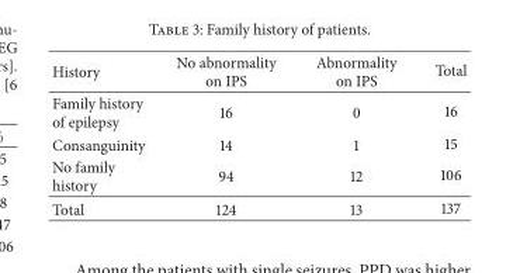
<table><thead><tr><td>History</td><td>No abnormality on IPS</td><td>Abnormality on IPS</td><td>Total</td></tr></thead><tbody><tr><td>Family history of epilepsy</td><td>16</td><td>0</td><td>16</td></tr><tr><td>Consanguinity</td><td>14</td><td>1</td><td>15</td></tr><tr><td>No family history</td><td>94</td><td>12</td><td>106</td></tr><tr><td>Total</td><td>124</td><td>13</td><td>137</td></tr></tbody></table>